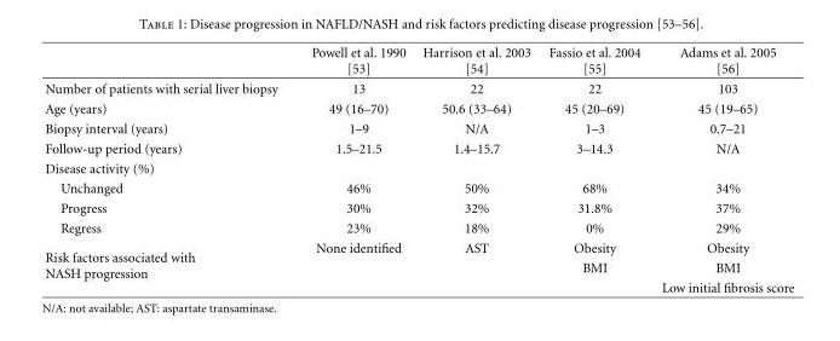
<table><thead><tr><td></td><td>Powell et al. 1990 [53]</td><td>Harrison et al. 2003 [54]</td><td>Fassio et al. 2004 [55]</td><td>Adams et al. 2005 [56]</td></tr></thead><tbody><tr><td>Number of patients with serial liver biopsy</td><td>13</td><td>22</td><td>22</td><td>103</td></tr><tr><td>Age (years)</td><td>49 (16–70)</td><td>50.6 (33–64)</td><td>45 (20–69)</td><td>45 (19–65)</td></tr><tr><td>Biopsy interval (years)</td><td>1–9</td><td>N/A</td><td>1–3</td><td>0.7–21</td></tr><tr><td>Follow-up period (years)</td><td>1.5–21.5</td><td>1.4–15.7</td><td>3–14.3</td><td>N/A</td></tr><tr><td colspan="5">Disease activity (%)</td></tr><tr><td>Unchanged</td><td>46%</td><td>50%</td><td>68%</td><td>34%</td></tr><tr><td>Progress</td><td>30%</td><td>32%</td><td>31.8%</td><td>37%</td></tr><tr><td>Regress</td><td>23%</td><td>18%</td><td>0%</td><td>29%</td></tr><tr><td rowspan="3">Risk factors associated with NASH progression</td><td>None identified</td><td>AST</td><td>Obesity</td><td>Obesity</td></tr><tr><td></td><td></td><td>BMI</td><td>BMI</td></tr><tr><td></td><td></td><td></td><td>Low initial fibrosis score</td></tr></tbody></table>